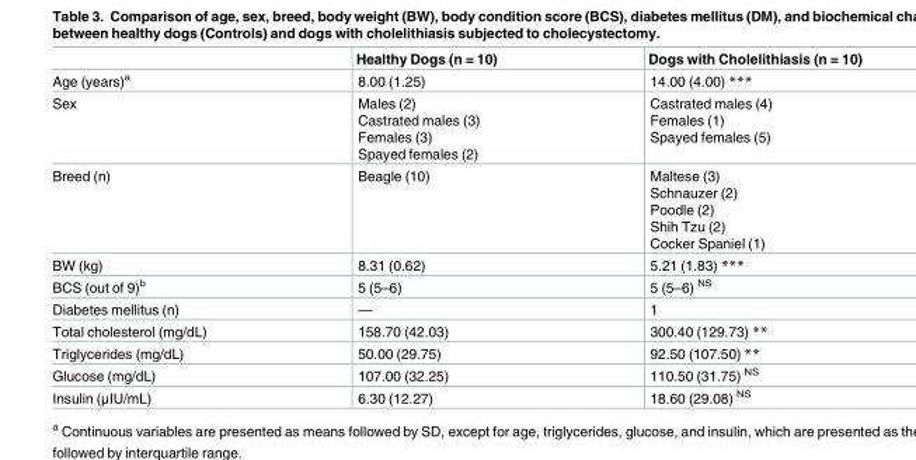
<table><thead><tr><td></td><td>Healthy Dogs (n = 10)</td><td>Dogs with Cholelithiasis (n = 10)</td></tr></thead><tbody><tr><td>Age (years)<sup>a</sup></td><td>8.00 (1.25)</td><td>14.00 (4.00) ***</td></tr><tr><td>Sex</td><td>Males (2) Castrated males (3) Females (3) Spayed females (2)</td><td>Castrated males (4) Females (1) Spayed females (5)</td></tr><tr><td>Breed (n)</td><td>Beagle (10)</td><td>Maltese (3) Schnauzer (2) Poodle (2) Shih Tzu (2) Cocker Spaniel (1)</td></tr><tr><td>BW (kg)</td><td>8.31 (0.62)</td><td>5.21 (1.83) ***</td></tr><tr><td>BCS (out of 9)<sup>b</sup></td><td>5 (5–6)</td><td>5 (5–6) <sup>NS</sup></td></tr><tr><td>Diabetes mellitus (n)</td><td>—</td><td>1</td></tr><tr><td>Total cholesterol (mg/dL)</td><td>158.70 (42.03)</td><td>300.40 (129.73) **</td></tr><tr><td>Triglycerides (mg/dL)</td><td>50.00 (29.75)</td><td>92.50 (107.50) **</td></tr><tr><td>Glucose (mg/dL)</td><td>107.00 (32.25)</td><td>110.50 (31.75) <sup>NS</sup></td></tr><tr><td>Insulin (μIU/mL)</td><td>6.30 (12.27)</td><td>18.60 (29.08) <sup>NS</sup></td></tr></tbody></table>